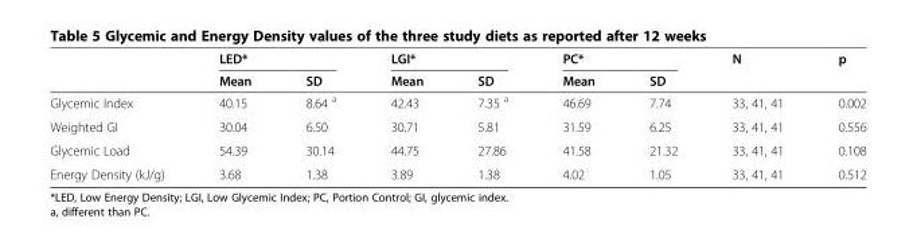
<table><thead><tr><td rowspan="2"></td><td rowspan="2">LED* Mean</td><td rowspan="2">SD</td><td rowspan="2">LGI* Mean</td><td rowspan="2">SD</td><td rowspan="2">PC* Mean</td><td rowspan="2">SD</td><td rowspan="2">N</td><td rowspan="2">p</td></tr><tr></tr></thead><tbody><tr><td>Glycemic Index</td><td>40.15</td><td>8.64 <sup>a</sup></td><td>42.43</td><td>7.35 <sup>a</sup></td><td>46.69</td><td>7.74</td><td>33, 41, 41</td><td>0.002</td></tr><tr><td>Weighted GI</td><td>30.04</td><td>6.50</td><td>30.71</td><td>5.81</td><td>31.59</td><td>6.25</td><td>33, 41, 41</td><td>0.556</td></tr><tr><td>Glycemic Load</td><td>54.39</td><td>30.14</td><td>44.75</td><td>27.86</td><td>41.58</td><td>21.32</td><td>33, 41, 41</td><td>0.108</td></tr><tr><td>Energy Density (kJ/g)</td><td>3.68</td><td>1.38</td><td>3.89</td><td>1.38</td><td>4.02</td><td>1.05</td><td>33, 41, 41</td><td>0.512</td></tr></tbody></table>